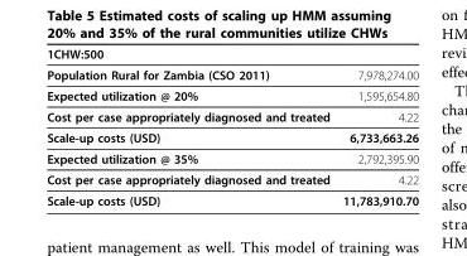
<table><thead><tr><td>1CHW:500</td><td></td></tr></thead><tbody><tr><td>Population Rural for Zambia (CSO 2011)</td><td>7,978,274.00</td></tr><tr><td>Expected utilization @ 20%</td><td>1,595,654.80</td></tr><tr><td>Cost per case appropriately diagnosed and treated</td><td>4.22</td></tr><tr><td>Scale-up costs (USD)</td><td>6,733,663.26</td></tr><tr><td>Expected utilization @ 35%</td><td>2,792,395.90</td></tr><tr><td>Cost per case appropriately diagnosed and treated</td><td>4.22</td></tr><tr><td>Scale-up costs (USD)</td><td>11,783,910.70</td></tr></tbody></table>